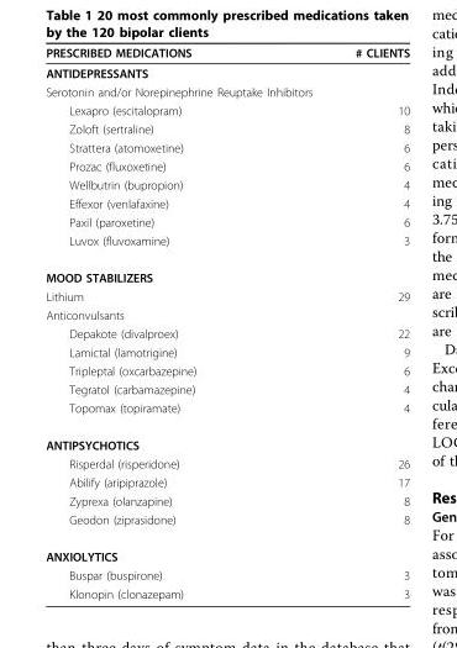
<table><thead><tr><td>PRESCRIBED MEDICATIONS</td><td># CLIENTS</td></tr></thead><tbody><tr><td colspan="2">ANTIDEPRESSANTS</td></tr><tr><td colspan="2">Serotonin and/or Norepinephrine Reuptake Inhibitors</td></tr><tr><td>Lexapro (escitalopram)</td><td>10</td></tr><tr><td>Zoloft (sertraline)</td><td>8</td></tr><tr><td>Strattera (atomoxetine)</td><td>6</td></tr><tr><td>Prozac (fluxoxetine)</td><td>6</td></tr><tr><td>Wellbutrin (bupropion)</td><td>4</td></tr><tr><td>Effexor (venlafaxine)</td><td>4</td></tr><tr><td>Paxil (paroxetine)</td><td>6</td></tr><tr><td>Luvox (fluvoxamine)</td><td>3</td></tr><tr><td colspan="2">MOOD STABILIZERS</td></tr><tr><td>Lithium</td><td>29</td></tr><tr><td colspan="2">Anticonvulsants</td></tr><tr><td>Depakote (divalproex)</td><td>22</td></tr><tr><td>Lamictal (lamotrigine)</td><td>9</td></tr><tr><td>Tripleptal (oxcarbazepine)</td><td>6</td></tr><tr><td>Tegratol (carbamazepine)</td><td>4</td></tr><tr><td>Topomax (topiramate)</td><td>4</td></tr><tr><td colspan="2">ANTIPSYCHOTICS</td></tr><tr><td>Risperdal (risperidone)</td><td>26</td></tr><tr><td>Abilify (aripiprazole)</td><td>17</td></tr><tr><td>Zyprexa (olanzapine)</td><td>8</td></tr><tr><td>Geodon (ziprasidone)</td><td>8</td></tr><tr><td colspan="2">ANXIOLYTICS</td></tr><tr><td>Buspar (buspirone)</td><td>3</td></tr><tr><td>Klonopin (clonazepam)</td><td>3</td></tr></tbody></table>